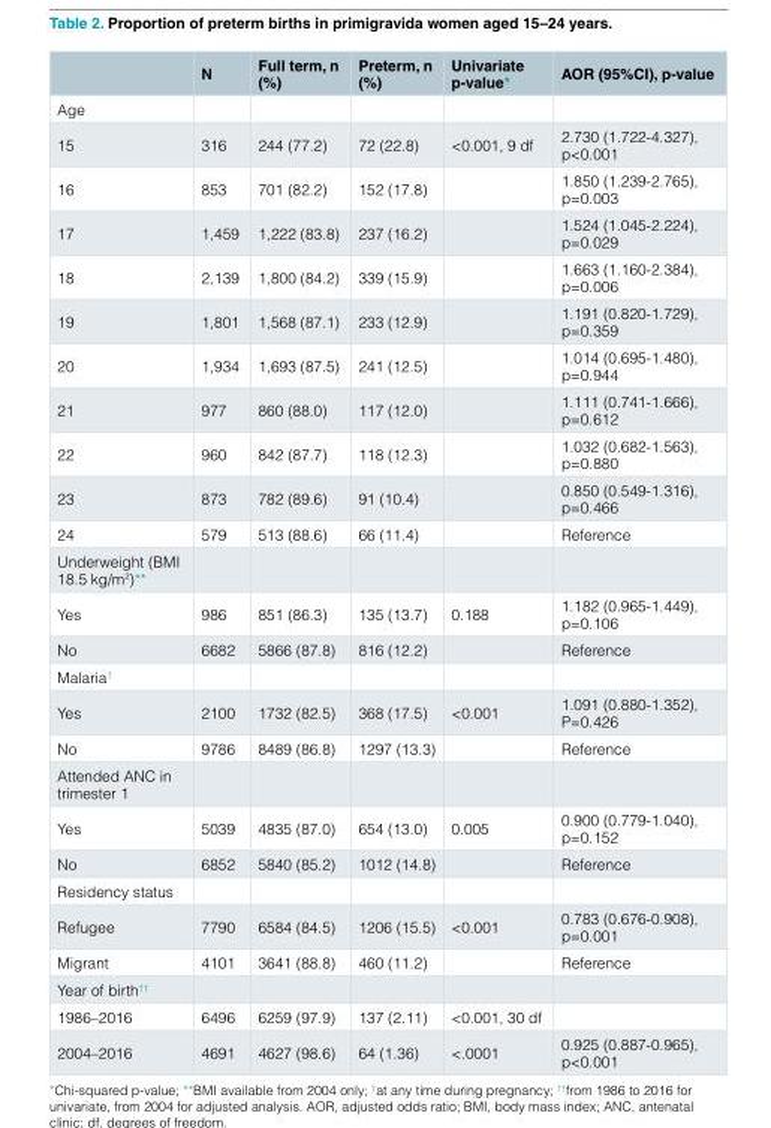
<table><thead><tr><td></td><td>N</td><td>Full term, n (%)</td><td>Preterm, n (%)</td><td>Univariate p-value*</td><td>AOR (95%CI), p-value</td></tr></thead><tbody><tr><td colspan="6">Age</td></tr><tr><td>15</td><td>316</td><td>244 (77.2)</td><td>72 (22.8)</td><td>&lt;0.001, 9 df</td><td>2.730 (1.722-4.327), p&lt;0.001</td></tr><tr><td>16</td><td>853</td><td>701 (82.2)</td><td>152 (17.8)</td><td></td><td>1.850 (1.239-2.765), p=0.003</td></tr><tr><td>17</td><td>1,459</td><td>1,222 (83.8)</td><td>237 (16.2)</td><td></td><td>1.524 (1.045-2.224), p=0.029</td></tr><tr><td>18</td><td>2,139</td><td>1,800 (84.2)</td><td>339 (15.9)</td><td></td><td>1.663 (1.160-2.384), p=0.006</td></tr><tr><td>19</td><td>1,801</td><td>1,568 (87.1)</td><td>233 (12.9)</td><td></td><td>1.191 (0.820-1.729), p=0.359</td></tr><tr><td>20</td><td>1,934</td><td>1,693 (87.5)</td><td>241 (12.5)</td><td></td><td>1.014 (0.695-1.480), p=0.944</td></tr><tr><td>21</td><td>977</td><td>860 (88.0)</td><td>117 (12.0)</td><td></td><td>1.111 (0.741-1.666), p=0.612</td></tr><tr><td>22</td><td>960</td><td>842 (87.7)</td><td>118 (12.3)</td><td></td><td>1.032 (0.682-1.563), p=0.880</td></tr><tr><td>23</td><td>873</td><td>782 (89.6)</td><td>91 (10.4)</td><td></td><td>0.850 (0.549-1.316), p=0.466</td></tr><tr><td>24</td><td>579</td><td>513 (88.6)</td><td>66 (11.4)</td><td></td><td>Reference</td></tr><tr><td colspan="6">Underweight (BMI 18.5 kg/m<sup>2</sup>)**</td></tr><tr><td>Yes</td><td>986</td><td>851 (86.3)</td><td>135 (13.7)</td><td>0.188</td><td>1.182 (0.965-1.449), p=0.106</td></tr><tr><td>No</td><td>6682</td><td>5866 (87.8)</td><td>816 (12.2)</td><td></td><td>Reference</td></tr><tr><td colspan="6">Malaria<sup>†</sup></td></tr><tr><td>Yes</td><td>2100</td><td>1732 (82.5)</td><td>368 (17.5)</td><td>&lt;0.001</td><td>1.091 (0.880-1.352), P=0.426</td></tr><tr><td>No</td><td>9786</td><td>8489 (86.8)</td><td>1297 (13.3)</td><td></td><td>Reference</td></tr><tr><td colspan="6">Attended ANC in trimester 1</td></tr><tr><td>Yes</td><td>5039</td><td>4835 (87.0)</td><td>654 (13.0)</td><td>0.005</td><td>0.900 (0.779-1.040), p=0.152</td></tr><tr><td>No</td><td>6852</td><td>5840 (85.2)</td><td>1012 (14.8)</td><td></td><td>Reference</td></tr><tr><td colspan="6">Residency status</td></tr><tr><td>Refugee</td><td>7790</td><td>6584 (84.5)</td><td>1206 (15.5)</td><td>&lt;0.001</td><td>0.783 (0.676-0.908), p=0.001</td></tr><tr><td>Migrant</td><td>4101</td><td>3641 (88.8)</td><td>460 (11.2)</td><td></td><td>Reference</td></tr><tr><td colspan="6">Year of birth<sup>††</sup></td></tr><tr><td>1986–2016</td><td>6496</td><td>6259 (97.9)</td><td>137 (2.11)</td><td>&lt;0.001, 30 df</td><td></td></tr><tr><td>2004–2016</td><td>4691</td><td>4627 (98.6)</td><td>64 (1.36)</td><td>&lt;.0001</td><td>0.925 (0.887-0.965), p&lt;0.001</td></tr></tbody></table>